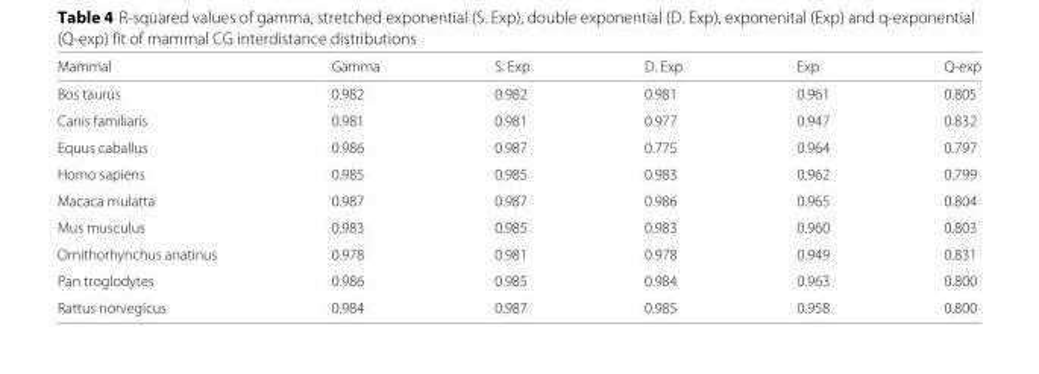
<table><thead><tr><td>Mammal</td><td>Gamma</td><td>S. Exp</td><td>D. Exp</td><td>Exp</td><td>Q-exp</td></tr></thead><tbody><tr><td>Bos taurus</td><td>0.982</td><td>0.982</td><td>0.981</td><td>0.961</td><td>0.805</td></tr><tr><td>Canis familiaris</td><td>0.981</td><td>0.981</td><td>0.977</td><td>0.947</td><td>0.832</td></tr><tr><td>Equus caballus</td><td>0.986</td><td>0.987</td><td>0.775</td><td>0.964</td><td>0.797</td></tr><tr><td>Homo sapiens</td><td>0.985</td><td>0.985</td><td>0.983</td><td>0.962</td><td>0.799</td></tr><tr><td>Macaca mulatta</td><td>0.987</td><td>0.987</td><td>0.986</td><td>0.965</td><td>0.804</td></tr><tr><td>Mus musculus</td><td>0.983</td><td>0.985</td><td>0.983</td><td>0.960</td><td>0.803</td></tr><tr><td>Ornithorhynchus anatinus</td><td>0.978</td><td>0.981</td><td>0.978</td><td>0.949</td><td>0.831</td></tr><tr><td>Pan troglodytes</td><td>0.986</td><td>0.985</td><td>0.984</td><td>0.963</td><td>0.800</td></tr><tr><td>Rattus norvegicus</td><td>0.984</td><td>0.987</td><td>0.985</td><td>0.958</td><td>0.800</td></tr></tbody></table>